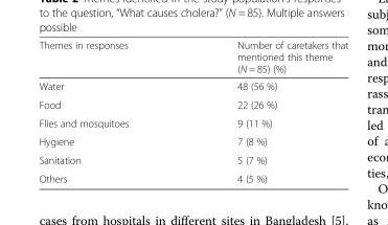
<table><thead><tr><td>Themes in responses</td><td>Number of caretakers that mentioned this theme (N = 85) (%)</td></tr></thead><tbody><tr><td>Water</td><td>48 (56 %)</td></tr><tr><td>Food</td><td>22 (26 %)</td></tr><tr><td>Flies and mosquitoes</td><td>9 (11 %)</td></tr><tr><td>Hygiene</td><td>7 (8 %)</td></tr><tr><td>Sanitation</td><td>5 (7 %)</td></tr><tr><td>Others</td><td>4 (5 %)</td></tr></tbody></table>